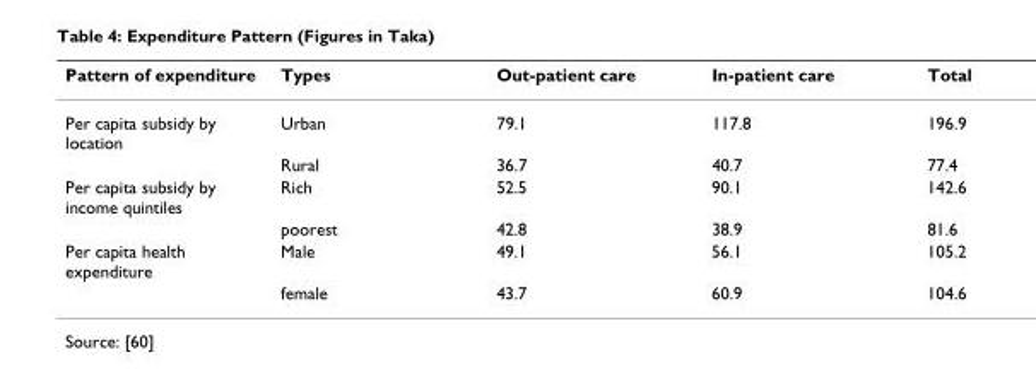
<table><thead><tr><td>Pattern of expenditure</td><td>Types</td><td>Out-patient care</td><td>In-patient care</td><td>Total</td></tr></thead><tbody><tr><td rowspan="2">Per capita subsidy by location</td><td>Urban</td><td>79.1</td><td>117.8</td><td>196.9</td></tr><tr><td>Rural</td><td>36.7</td><td>40.7</td><td>77.4</td></tr><tr><td rowspan="2">Per capita subsidy by income quintiles</td><td>Rich</td><td>52.5</td><td>90.1</td><td>142.6</td></tr><tr><td>poorest</td><td>42.8</td><td>38.9</td><td>81.6</td></tr><tr><td rowspan="2">Per capita health expenditure</td><td>Male</td><td>49.1</td><td>56.1</td><td>105.2</td></tr><tr><td>female</td><td>43.7</td><td>60.9</td><td>104.6</td></tr></tbody></table>